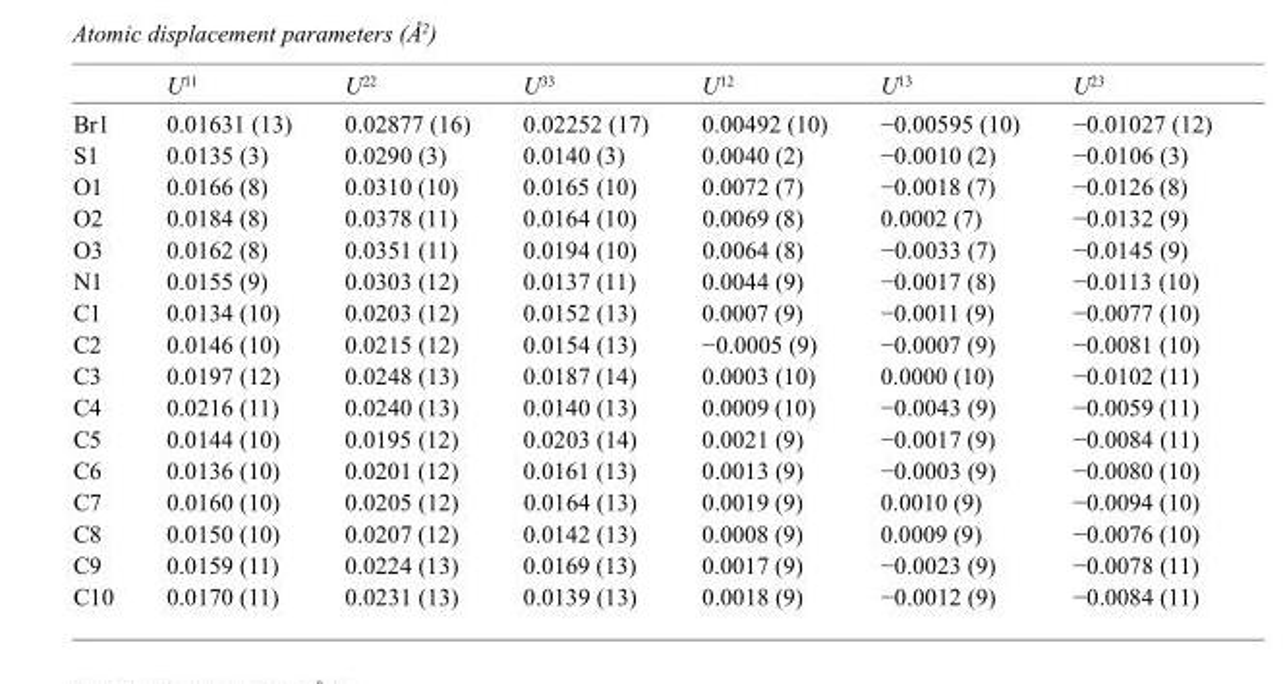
<table><thead><tr><td></td><td>U<sup>11</sup></td><td>U<sup>22</sup></td><td>U<sup>33</sup></td><td>U<sup>12</sup></td><td>U<sup>13</sup></td><td>U<sup>23</sup></td></tr></thead><tbody><tr><td>Br1</td><td>0.01631 (13)</td><td>0.02877 (16)</td><td>0.02252 (17)</td><td>0.00492 (10)</td><td>−0.00595 (10)</td><td>−0.01027 (12)</td></tr><tr><td>S1</td><td>0.0135 (3)</td><td>0.0290 (3)</td><td>0.0140 (3)</td><td>0.0040 (2)</td><td>−0.0010 (2)</td><td>−0.0106 (3)</td></tr><tr><td>O1</td><td>0.0166 (8)</td><td>0.0310 (10)</td><td>0.0165 (10)</td><td>0.0072 (7)</td><td>−0.0018 (7)</td><td>−0.0126 (8)</td></tr><tr><td>O2</td><td>0.0184 (8)</td><td>0.0378 (11)</td><td>0.0164 (10)</td><td>0.0069 (8)</td><td>0.0002 (7)</td><td>−0.0132 (9)</td></tr><tr><td>O3</td><td>0.0162 (8)</td><td>0.0351 (11)</td><td>0.0194 (10)</td><td>0.0064 (8)</td><td>−0.0033 (7)</td><td>−0.0145 (9)</td></tr><tr><td>N1</td><td>0.0155 (9)</td><td>0.0303 (12)</td><td>0.0137 (11)</td><td>0.0044 (9)</td><td>−0.0017 (8)</td><td>−0.0113 (10)</td></tr><tr><td>C1</td><td>0.0134 (10)</td><td>0.0203 (12)</td><td>0.0152 (13)</td><td>0.0007 (9)</td><td>−0.0011 (9)</td><td>−0.0077 (10)</td></tr><tr><td>C2</td><td>0.0146 (10)</td><td>0.0215 (12)</td><td>0.0154 (13)</td><td>−0.0005 (9)</td><td>−0.0007 (9)</td><td>−0.0081 (10)</td></tr><tr><td>C3</td><td>0.0197 (12)</td><td>0.0248 (13)</td><td>0.0187 (14)</td><td>0.0003 (10)</td><td>0.0000 (10)</td><td>−0.0102 (11)</td></tr><tr><td>C4</td><td>0.0216 (11)</td><td>0.0240 (13)</td><td>0.0140 (13)</td><td>0.0009 (10)</td><td>−0.0043 (9)</td><td>−0.0059 (11)</td></tr><tr><td>C5</td><td>0.0144 (10)</td><td>0.0195 (12)</td><td>0.0203 (14)</td><td>0.0021 (9)</td><td>−0.0017 (9)</td><td>−0.0084 (11)</td></tr><tr><td>C6</td><td>0.0136 (10)</td><td>0.0201 (12)</td><td>0.0161 (13)</td><td>0.0013 (9)</td><td>−0.0003 (9)</td><td>−0.0080 (10)</td></tr><tr><td>C7</td><td>0.0160 (10)</td><td>0.0205 (12)</td><td>0.0164 (13)</td><td>0.0019 (9)</td><td>0.0010 (9)</td><td>−0.0094 (10)</td></tr><tr><td>C8</td><td>0.0150 (10)</td><td>0.0207 (12)</td><td>0.0142 (13)</td><td>0.0008 (9)</td><td>0.0009 (9)</td><td>−0.0076 (10)</td></tr><tr><td>C9</td><td>0.0159 (11)</td><td>0.0224 (13)</td><td>0.0169 (13)</td><td>0.0017 (9)</td><td>−0.0023 (9)</td><td>−0.0078 (11)</td></tr><tr><td>C10</td><td>0.0170 (11)</td><td>0.0231 (13)</td><td>0.0139 (13)</td><td>0.0018 (9)</td><td>−0.0012 (9)</td><td>−0.0084 (11)</td></tr></tbody></table>